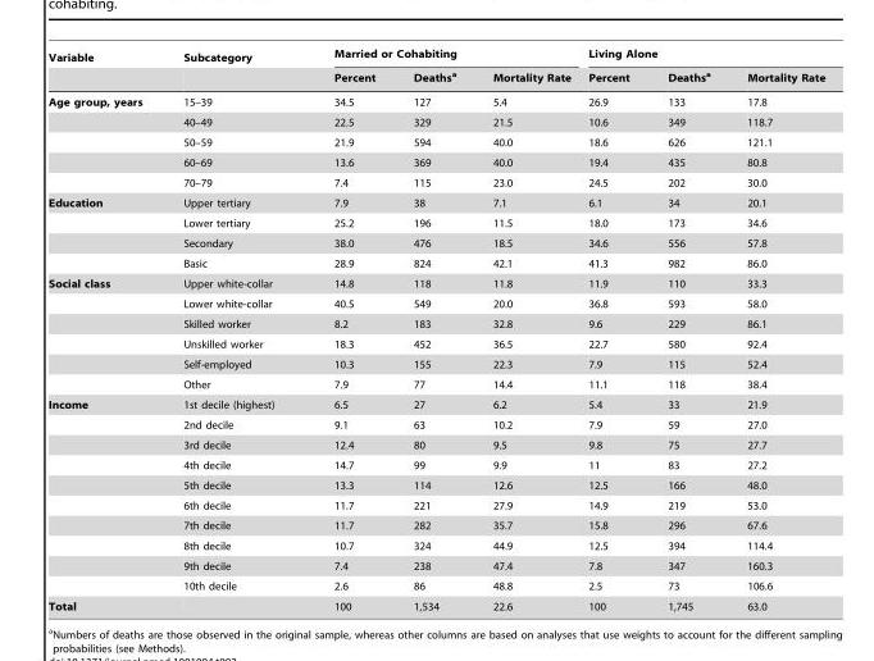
<table><thead><tr><td rowspan="2">Variable</td><td rowspan="2">Subcategory</td><td colspan="3">Married or Cohabiting</td><td colspan="3">Living Alone</td></tr><tr><td>Percent</td><td>Deaths<sup>a</sup></td><td>Mortality Rate</td><td>Percent</td><td>Deaths<sup>a</sup></td><td>Mortality Rate</td></tr></thead><tbody><tr><td rowspan="5">Age group, years</td><td>15–39</td><td>34.5</td><td>127</td><td>5.4</td><td>26.9</td><td>133</td><td>17.8</td></tr><tr><td>40–49</td><td>22.5</td><td>329</td><td>21.5</td><td>10.6</td><td>349</td><td>118.7</td></tr><tr><td>50–59</td><td>21.9</td><td>594</td><td>40.0</td><td>18.6</td><td>626</td><td>121.1</td></tr><tr><td>60–69</td><td>13.6</td><td>369</td><td>40.0</td><td>19.4</td><td>435</td><td>80.8</td></tr><tr><td>70–79</td><td>7.4</td><td>115</td><td>23.0</td><td>24.5</td><td>202</td><td>30.0</td></tr><tr><td rowspan="4">Education</td><td>Upper tertiary</td><td>7.9</td><td>38</td><td>7.1</td><td>6.1</td><td>34</td><td>20.1</td></tr><tr><td>Lower tertiary</td><td>25.2</td><td>196</td><td>11.5</td><td>18.0</td><td>173</td><td>34.6</td></tr><tr><td>Secondary</td><td>38.0</td><td>476</td><td>18.5</td><td>34.6</td><td>556</td><td>57.8</td></tr><tr><td>Basic</td><td>28.9</td><td>824</td><td>42.1</td><td>41.3</td><td>982</td><td>86.0</td></tr><tr><td rowspan="6">Social class</td><td>Upper white-collar</td><td>14.8</td><td>118</td><td>11.8</td><td>11.9</td><td>110</td><td>33.3</td></tr><tr><td>Lower white-collar</td><td>40.5</td><td>549</td><td>20.0</td><td>36.8</td><td>593</td><td>58.0</td></tr><tr><td>Skilled worker</td><td>8.2</td><td>183</td><td>32.8</td><td>9.6</td><td>229</td><td>86.1</td></tr><tr><td>Unskilled worker</td><td>18.3</td><td>452</td><td>36.5</td><td>22.7</td><td>580</td><td>92.4</td></tr><tr><td>Self-employed</td><td>10.3</td><td>155</td><td>22.3</td><td>7.9</td><td>115</td><td>52.4</td></tr><tr><td>Other</td><td>7.9</td><td>77</td><td>14.4</td><td>11.1</td><td>118</td><td>38.4</td></tr><tr><td rowspan="10">Income</td><td>1st decile (highest)</td><td>6.5</td><td>27</td><td>6.2</td><td>5.4</td><td>33</td><td>21.9</td></tr><tr><td>2nd decile</td><td>9.1</td><td>63</td><td>10.2</td><td>7.9</td><td>59</td><td>27.0</td></tr><tr><td>3rd decile</td><td>12.4</td><td>80</td><td>9.5</td><td>9.8</td><td>75</td><td>27.7</td></tr><tr><td>4th decile</td><td>14.7</td><td>99</td><td>9.9</td><td>11</td><td>83</td><td>27.2</td></tr><tr><td>5th decile</td><td>13.3</td><td>114</td><td>12.6</td><td>12.5</td><td>166</td><td>48.0</td></tr><tr><td>6th decile</td><td>11.7</td><td>221</td><td>27.9</td><td>14.9</td><td>219</td><td>53.0</td></tr><tr><td>7th decile</td><td>11.7</td><td>282</td><td>35.7</td><td>15.8</td><td>296</td><td>67.6</td></tr><tr><td>8th decile</td><td>10.7</td><td>324</td><td>44.9</td><td>12.5</td><td>394</td><td>114.4</td></tr><tr><td>9th decile</td><td>7.4</td><td>238</td><td>47.4</td><td>7.8</td><td>347</td><td>160.3</td></tr><tr><td>10th decile</td><td>2.6</td><td>86</td><td>48.8</td><td>2.5</td><td>73</td><td>106.6</td></tr><tr><td>Total</td><td></td><td>100</td><td>1,534</td><td>22.6</td><td>100</td><td>1,745</td><td>63.0</td></tr></tbody></table>